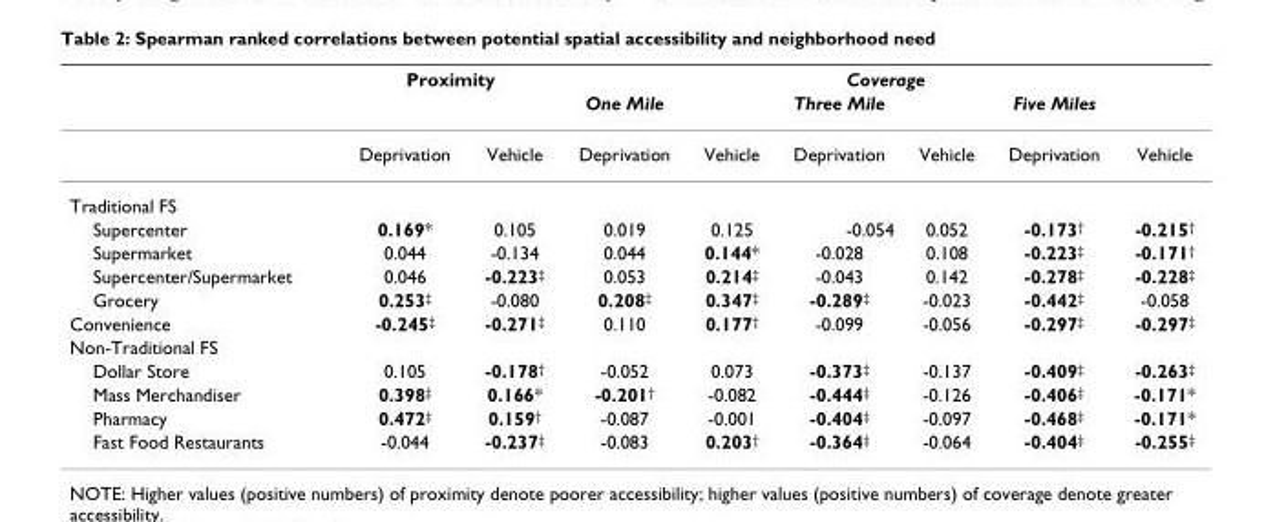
<table><thead><tr><td rowspan="2"></td><td colspan="2">Proximity</td><td colspan="6">Coverage</td></tr><tr><td></td><td></td><td>One Mile</td><td></td><td>Three Mile</td><td></td><td>Five Miles</td><td></td></tr></thead><tbody><tr><td></td><td>Deprivation</td><td>Vehicle</td><td>Deprivation</td><td>Vehicle</td><td>Deprivation</td><td>Vehicle</td><td>Deprivation</td><td>Vehicle</td></tr><tr><td colspan="9">Traditional FS</td></tr><tr><td>Supercenter</td><td>0.169*</td><td>0.105</td><td>0.019</td><td>0.125</td><td>-0.054</td><td>0.052</td><td>-0.173<sup>†</sup></td><td>-0.215<sup>†</sup></td></tr><tr><td>Supermarket</td><td>0.044</td><td>-0.134</td><td>0.044</td><td>0.144*</td><td>-0.028</td><td>0.108</td><td>-0.223<sup>‡</sup></td><td>-0.171<sup>†</sup></td></tr><tr><td>Supercenter/Supermarket</td><td>0.046</td><td>-0.223<sup>‡</sup></td><td>0.053</td><td>0.214<sup>‡</sup></td><td>-0.043</td><td>0.142</td><td>-0.278<sup>‡</sup></td><td>-0.228<sup>‡</sup></td></tr><tr><td>Grocery</td><td>0.253<sup>‡</sup></td><td>-0.080</td><td>0.208<sup>‡</sup></td><td>0.347<sup>‡</sup></td><td>-0.289<sup>‡</sup></td><td>-0.023</td><td>-0.442<sup>‡</sup></td><td>-0.058</td></tr><tr><td>Convenience</td><td>-0.245<sup>‡</sup></td><td>-0.271<sup>‡</sup></td><td>0.110</td><td>0.177<sup>†</sup></td><td>-0.099</td><td>-0.056</td><td>-0.297<sup>‡</sup></td><td>-0.297<sup>‡</sup></td></tr><tr><td colspan="9">Non-Traditional FS</td></tr><tr><td>Dollar Store</td><td>0.105</td><td>-0.178<sup>†</sup></td><td>-0.052</td><td>0.073</td><td>-0.373<sup>‡</sup></td><td>-0.137</td><td>-0.409<sup>‡</sup></td><td>-0.263<sup>‡</sup></td></tr><tr><td>Mass Merchandiser</td><td>0.398<sup>‡</sup></td><td>0.166*</td><td>-0.201<sup>†</sup></td><td>-0.082</td><td>-0.444<sup>‡</sup></td><td>-0.126</td><td>-0.406<sup>‡</sup></td><td>-0.171*</td></tr><tr><td>Pharmacy</td><td>0.472<sup>‡</sup></td><td>0.159<sup>†</sup></td><td>-0.087</td><td>-0.001</td><td>-0.404<sup>‡</sup></td><td>-0.097</td><td>-0.468<sup>‡</sup></td><td>-0.171*</td></tr><tr><td>Fast Food Restaurants</td><td>-0.044</td><td>-0.237<sup>‡</sup></td><td>-0.083</td><td>0.203<sup>†</sup></td><td>-0.364<sup>‡</sup></td><td>-0.064</td><td>-0.404<sup>‡</sup></td><td>-0.255<sup>‡</sup></td></tr></tbody></table>